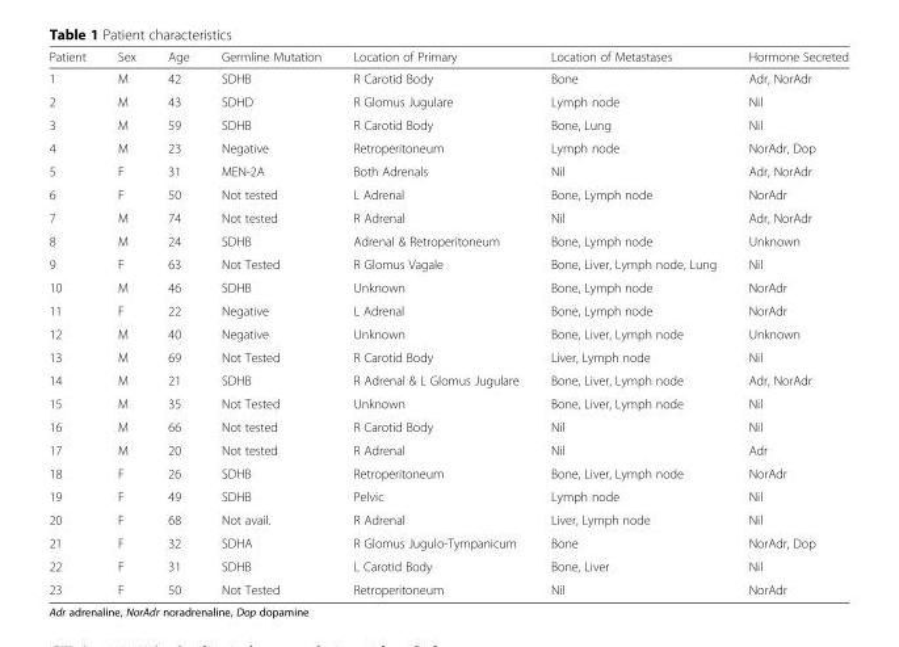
<table><thead><tr><td>Patient</td><td>Sex</td><td>Age</td><td>Germline Mutation</td><td>Location of Primary</td><td>Location of Metastases</td><td>Hormone Secreted</td></tr></thead><tbody><tr><td>1</td><td>M</td><td>42</td><td>SDHB</td><td>R Carotid Body</td><td>Bone</td><td>Adr, NorAdr</td></tr><tr><td>2</td><td>M</td><td>43</td><td>SDHD</td><td>R Glomus Jugulare</td><td>Lymph node</td><td>Nil</td></tr><tr><td>3</td><td>M</td><td>59</td><td>SDHB</td><td>R Carotid Body</td><td>Bone, Lung</td><td>Nil</td></tr><tr><td>4</td><td>M</td><td>23</td><td>Negative</td><td>Retroperitoneum</td><td>Lymph node</td><td>NorAdr, Dop</td></tr><tr><td>5</td><td>F</td><td>31</td><td>MEN-2A</td><td>Both Adrenals</td><td>Nil</td><td>Adr, NorAdr</td></tr><tr><td>6</td><td>F</td><td>50</td><td>Not tested</td><td>L Adrenal</td><td>Bone, Lymph node</td><td>NorAdr</td></tr><tr><td>7</td><td>M</td><td>74</td><td>Not tested</td><td>R Adrenal</td><td>Nil</td><td>Adr, NorAdr</td></tr><tr><td>8</td><td>M</td><td>24</td><td>SDHB</td><td>Adrenal &amp; Retroperitoneum</td><td>Bone, Lymph node</td><td>Unknown</td></tr><tr><td>9</td><td>F</td><td>63</td><td>Not Tested</td><td>R Glomus Vagale</td><td>Bone, Liver, Lymph node, Lung</td><td>Nil</td></tr><tr><td>10</td><td>M</td><td>46</td><td>SDHB</td><td>Unknown</td><td>Bone, Lymph node</td><td>NorAdr</td></tr><tr><td>11</td><td>F</td><td>22</td><td>Negative</td><td>L Adrenal</td><td>Bone, Lymph node</td><td>NorAdr</td></tr><tr><td>12</td><td>M</td><td>40</td><td>Negative</td><td>Unknown</td><td>Bone, Liver, Lymph node</td><td>Unknown</td></tr><tr><td>13</td><td>M</td><td>69</td><td>Not Tested</td><td>R Carotid Body</td><td>Liver, Lymph node</td><td>Nil</td></tr><tr><td>14</td><td>M</td><td>21</td><td>SDHB</td><td>R Adrenal &amp; L Glomus Jugulare</td><td>Bone, Liver, Lymph node</td><td>Adr, NorAdr</td></tr><tr><td>15</td><td>M</td><td>35</td><td>Not Tested</td><td>Unknown</td><td>Bone, Liver, Lymph node</td><td>Nil</td></tr><tr><td>16</td><td>M</td><td>66</td><td>Not tested</td><td>R Carotid Body</td><td>Nil</td><td>Nil</td></tr><tr><td>17</td><td>M</td><td>20</td><td>Not tested</td><td>R Adrenal</td><td>Nil</td><td>Adr</td></tr><tr><td>18</td><td>F</td><td>26</td><td>SDHB</td><td>Retroperitoneum</td><td>Bone, Liver, Lymph node</td><td>NorAdr</td></tr><tr><td>19</td><td>F</td><td>49</td><td>SDHB</td><td>Pelvic</td><td>Lymph node</td><td>Nil</td></tr><tr><td>20</td><td>F</td><td>68</td><td>Not avail.</td><td>R Adrenal</td><td>Liver, Lymph node</td><td>Nil</td></tr><tr><td>21</td><td>F</td><td>32</td><td>SDHA</td><td>R Glomus Jugulo-Tympanicum</td><td>Bone</td><td>NorAdr, Dop</td></tr><tr><td>22</td><td>F</td><td>31</td><td>SDHB</td><td>L Carotid Body</td><td>Bone, Liver</td><td>Nil</td></tr><tr><td>23</td><td>F</td><td>50</td><td>Not Tested</td><td>Retroperitoneum</td><td>Nil</td><td>NorAdr</td></tr></tbody></table>